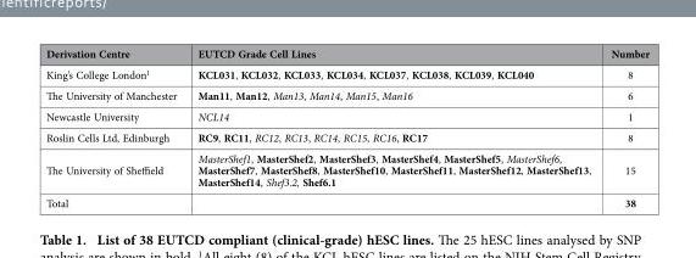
<table><thead><tr><td>Derivation Centre</td><td>EUTCD Grade Cell Lines</td><td>Number</td></tr></thead><tbody><tr><td>King’s College London<sup>1</sup></td><td>KCL031, KCL032, KCL033, KCL034, KCL037, KCL038, KCL039, KCL040</td><td>8</td></tr><tr><td>The University of Manchester</td><td>Man11, Man12, Man13, Man14, Man15, Man16</td><td>6</td></tr><tr><td>Newcastle University</td><td>NCL14</td><td>1</td></tr><tr><td>Roslin Cells Ltd, Edinburgh</td><td>RC9, RC11, RC12, RC13, RC14, RC15, RC16, RC17</td><td>8</td></tr><tr><td>The University of Sheffield</td><td>MasterShef1, MasterShef2, MasterShef3, MasterShef4, MasterShef5, MasterShef6, MasterShef7, MasterShef8, MasterShef10, MasterShef11, MasterShef12, MasterShef13, MasterShef14, Shef3.2, Shef6.1</td><td>15</td></tr><tr><td>Total</td><td></td><td>38</td></tr></tbody></table>